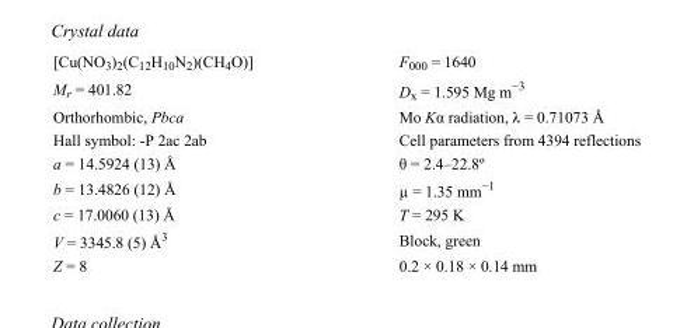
<table><tbody><tr><td>[Cu(NO<sub>3</sub>)<sub>2</sub>(C<sub>12</sub>H<sub>10</sub>N<sub>2</sub>)(CH<sub>4</sub>O)]</td><td>F000 = 1640</td></tr><tr><td>M<sub>r</sub> = 401.82</td><td>D<sub>x</sub> = 1.595 Mg m<sup>−3</sup></td></tr><tr><td>Orthorhombic, Pbca</td><td>Mo Kα radiation, λ = 0.71073 Å</td></tr><tr><td>Hall symbol: -P 2ac 2ab</td><td>Cell parameters from 4394 reflections</td></tr><tr><td>a = 14.5924 (13) Å</td><td>θ = 2.4–22.8º</td></tr><tr><td>b = 13.4826 (12) Å</td><td>µ = 1.35 mm<sup>−1</sup></td></tr><tr><td>c = 17.0060 (13) Å</td><td>T = 295 K</td></tr><tr><td>V = 3345.8 (5) Å<sup>3</sup></td><td>Block, green</td></tr><tr><td>Z = 8</td><td>0.2 × 0.18 × 0.14 mm</td></tr></tbody></table>